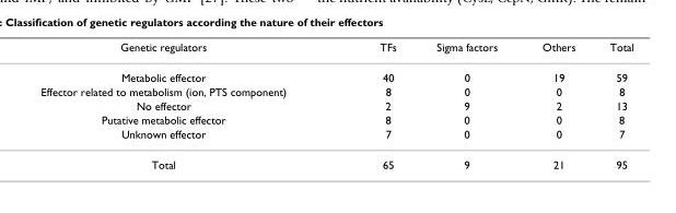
<table><thead><tr><td>Genetic regulators</td><td>TFs</td><td>Sigma factors</td><td>Others</td><td>Total</td></tr></thead><tbody><tr><td>Metabolic effector</td><td>40</td><td>0</td><td>19</td><td>59</td></tr><tr><td>Effector related to metabolism (ion, PTS component)</td><td>8</td><td>0</td><td>0</td><td>8</td></tr><tr><td>No effector</td><td>2</td><td>9</td><td>2</td><td>13</td></tr><tr><td>Putative metabolic effector</td><td>8</td><td>0</td><td>0</td><td>8</td></tr><tr><td>Unknown effector</td><td>7</td><td>0</td><td>0</td><td>7</td></tr><tr><td>Total</td><td>65</td><td>9</td><td>21</td><td>95</td></tr></tbody></table>